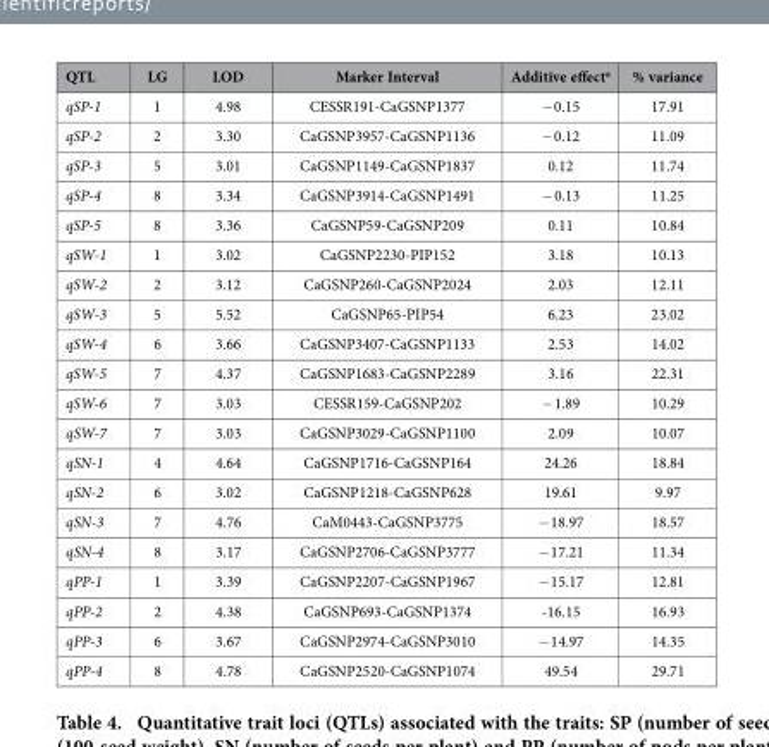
<table><thead><tr><td>QTL</td><td>LG</td><td>LOD</td><td>Marker Interval</td><td>Additive effect<sup>a</sup></td><td>% variance</td></tr></thead><tbody><tr><td>qSP-1</td><td>1</td><td>4.98</td><td>CESSR191-CaGSNP1377</td><td>− 0.15</td><td>17.91</td></tr><tr><td>qSP-2</td><td>2</td><td>3.30</td><td>CaGSNP3957-CaGSNP1136</td><td>− 0.12</td><td>11.09</td></tr><tr><td>qSP-3</td><td>5</td><td>3.01</td><td>CaGSNP1149-CaGSNP1837</td><td>0.12</td><td>11.74</td></tr><tr><td>qSP-4</td><td>8</td><td>3.34</td><td>CaGSNP3914-CaGSNP1491</td><td>− 0.13</td><td>11.25</td></tr><tr><td>qSP-5</td><td>8</td><td>3.36</td><td>CaGSNP59-CaGSNP209</td><td>0.11</td><td>10.84</td></tr><tr><td>qSW-1</td><td>1</td><td>3.02</td><td>CaGSNP2230-PIP152</td><td>3.18</td><td>10.13</td></tr><tr><td>qSW-2</td><td>2</td><td>3.12</td><td>CaGSNP260-CaGSNP2024</td><td>2.03</td><td>12.11</td></tr><tr><td>qSW-3</td><td>5</td><td>5.52</td><td>CaGSNP65-PIP54</td><td>6.23</td><td>23.02</td></tr><tr><td>qSW-4</td><td>6</td><td>3.66</td><td>CaGSNP3407-CaGSNP1133</td><td>2.53</td><td>14.02</td></tr><tr><td>qSW-5</td><td>7</td><td>4.37</td><td>CaGSNP1683-CaGSNP2289</td><td>3.16</td><td>22.31</td></tr><tr><td>qSW-6</td><td>7</td><td>3.03</td><td>CESSR159-CaGSNP202</td><td>− 1.89</td><td>10.29</td></tr><tr><td>qSW-7</td><td>7</td><td>3.03</td><td>CaGSNP3029-CaGSNP1100</td><td>2.09</td><td>10.07</td></tr><tr><td>qSN-1</td><td>4</td><td>4.64</td><td>CaGSNP1716-CaGSNP164</td><td>24.26</td><td>18.84</td></tr><tr><td>qSN-2</td><td>6</td><td>3.02</td><td>CaGSNP1218-CaGSNP628</td><td>19.61</td><td>9.97</td></tr><tr><td>qSN-3</td><td>7</td><td>4.76</td><td>CaM0443-CaGSNP3775</td><td>− 18.97</td><td>18.57</td></tr><tr><td>qSN-4</td><td>8</td><td>3.17</td><td>CaGSNP2706-CaGSNP3777</td><td>− 17.21</td><td>11.34</td></tr><tr><td>qPP-1</td><td>1</td><td>3.39</td><td>CaGSNP2207-CaGSNP1967</td><td>− 15.17</td><td>12.81</td></tr><tr><td>qPP-2</td><td>2</td><td>4.38</td><td>CaGSNP693-CaGSNP1374</td><td>-16.15</td><td>16.93</td></tr><tr><td>qPP-3</td><td>6</td><td>3.67</td><td>CaGSNP2974-CaGSNP3010</td><td>− 14.97</td><td>14.35</td></tr><tr><td>qPP-4</td><td>8</td><td>4.78</td><td>CaGSNP2520-CaGSNP1074</td><td>49.54</td><td>29.71</td></tr></tbody></table>